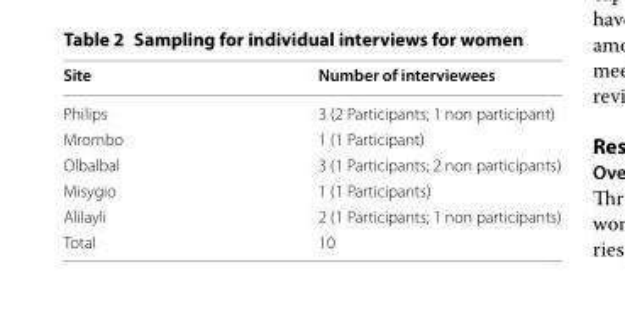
<table><thead><tr><td>Site</td><td>Number of interviewees</td></tr></thead><tbody><tr><td>Philips</td><td>3 (2 Participants; 1 non participant)</td></tr><tr><td>Mrombo</td><td>1 (1 Participant)</td></tr><tr><td>Olbalbal</td><td>3 (1 Participants; 2 non participants)</td></tr><tr><td>Misygio</td><td>1 (1 Participants)</td></tr><tr><td>Alilayli</td><td>2 (1 Participants; 1 non participants)</td></tr><tr><td>Total</td><td>10</td></tr></tbody></table>